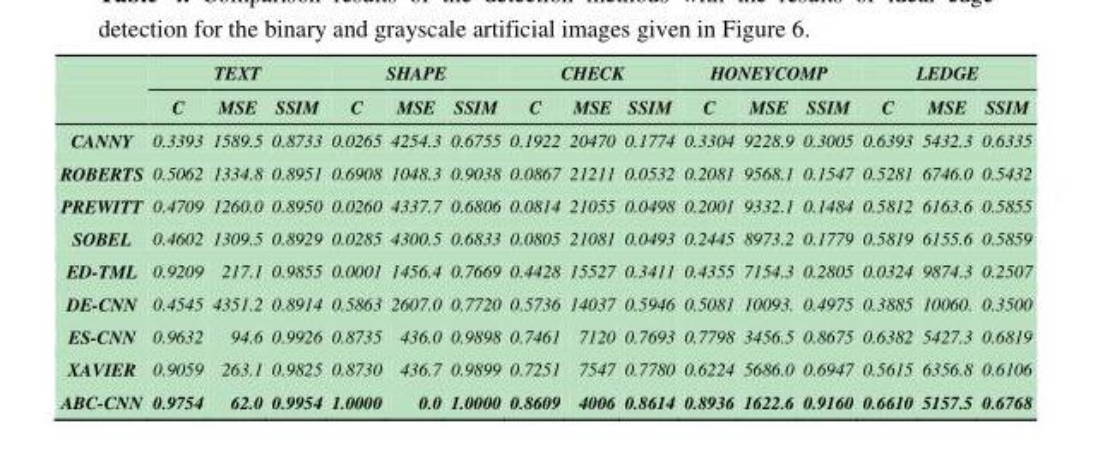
<table><thead><tr><td rowspan="2"></td><td colspan="3">TEXT</td><td colspan="3">SHAPE</td><td colspan="3">CHECK</td><td colspan="3">HONEYCOMP</td><td colspan="3">LEDGE</td></tr><tr><td>C</td><td>MSE</td><td>SSIM</td><td>C</td><td>MSE</td><td>SSIM</td><td>C</td><td>MSE</td><td>SSIM</td><td>C</td><td>MSE</td><td>SSIM</td><td>C</td><td>MSE</td><td>SSIM</td></tr></thead><tbody><tr><td>CANNY</td><td>0.3393</td><td>1589.5</td><td>0.8733</td><td>0.0265</td><td>4254.3</td><td>0.6755</td><td>0.1922</td><td>20470</td><td>0.1774</td><td>0.3304</td><td>9228.9</td><td>0.3005</td><td>0.6393</td><td>5432.3</td><td>0.6335</td></tr><tr><td>ROBERTS</td><td>0.5062</td><td>1334.8</td><td>0.8951</td><td>0.6908</td><td>1048.3</td><td>0.9038</td><td>0.0867</td><td>21211</td><td>0.0532</td><td>0.2081</td><td>9568.1</td><td>0.1547</td><td>0.5281</td><td>6746.0</td><td>0.5432</td></tr><tr><td>PREWITT</td><td>0.4709</td><td>1260.0</td><td>0.8950</td><td>0.0260</td><td>4337.7</td><td>0.6806</td><td>0.0814</td><td>21055</td><td>0.0498</td><td>0.2001</td><td>9332.1</td><td>0.1484</td><td>0.5812</td><td>6163.6</td><td>0.5855</td></tr><tr><td>SOBEL</td><td>0.4602</td><td>1309.5</td><td>0.8929</td><td>0.0285</td><td>4300.5</td><td>0.6833</td><td>0.0805</td><td>21081</td><td>0.0493</td><td>0.2445</td><td>8973.2</td><td>0.1779</td><td>0.5819</td><td>6155.6</td><td>0.5859</td></tr><tr><td>ED-TML</td><td>0.9209</td><td>217.1</td><td>0.9855</td><td>0.0001</td><td>1456.4</td><td>0.7669</td><td>0.4428</td><td>15527</td><td>0.3411</td><td>0.4355</td><td>7154.3</td><td>0.2805</td><td>0.0324</td><td>9874.3</td><td>0.2507</td></tr><tr><td>DE-CNN</td><td>0.4545</td><td>4351.2</td><td>0.8914</td><td>0.5863</td><td>2607.0</td><td>0.7720</td><td>0.5736</td><td>14037</td><td>0.5946</td><td>0.5081</td><td>10093.</td><td>0.4975</td><td>0.3885</td><td>10060.</td><td>0.3500</td></tr><tr><td>ES-CNN</td><td>0.9632</td><td>94.6</td><td>0.9926</td><td>0.8735</td><td>436.0</td><td>0.9898</td><td>0.7461</td><td>7120</td><td>0.7693</td><td>0.7798</td><td>3456.5</td><td>0.8675</td><td>0.6382</td><td>5427.3</td><td>0.6819</td></tr><tr><td>XAVIER</td><td>0.9059</td><td>263.1</td><td>0.9825</td><td>0.8730</td><td>436.7</td><td>0.9899</td><td>0.7251</td><td>7547</td><td>0.7780</td><td>0.6224</td><td>5686.0</td><td>0.6947</td><td>0.5615</td><td>6356.8</td><td>0.6106</td></tr><tr><td>ABC-CNN</td><td>0.9754</td><td>62.0</td><td>0.9954</td><td>1.0000</td><td>0.0</td><td>1.0000</td><td>0.8609</td><td>4006</td><td>0.8614</td><td>0.8936</td><td>1622.6</td><td>0.9160</td><td>0.6610</td><td>5157.5</td><td>0.6768</td></tr></tbody></table>